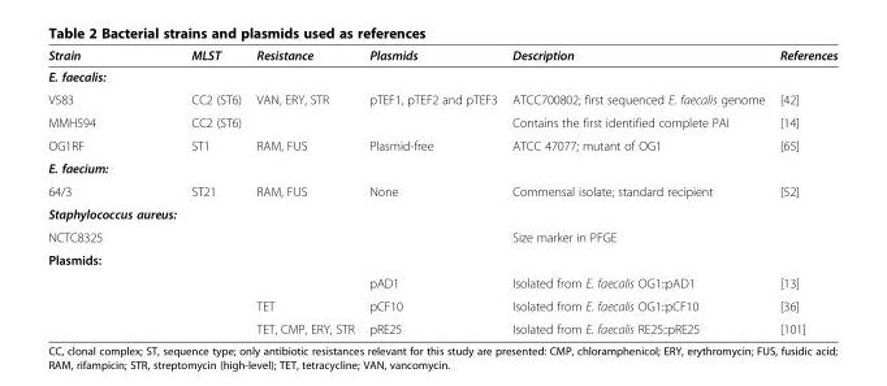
<table><thead><tr><td>Strain</td><td>MLST</td><td>Resistance</td><td>Plasmids</td><td>Description</td><td>References</td></tr></thead><tbody><tr><td colspan="6">E. faecalis:</td></tr><tr><td>V583</td><td>CC2 (ST6)</td><td>VAN, ERY, STR</td><td>pTEF1, pTEF2 and pTEF3</td><td>ATCC700802; first sequenced E. faecalis genome</td><td>[42]</td></tr><tr><td>MMH594</td><td>CC2 (ST6)</td><td></td><td></td><td>Contains the first identified complete PAI</td><td>[14]</td></tr><tr><td>OG1RF</td><td>ST1</td><td>RAM, FUS</td><td>Plasmid-free</td><td>ATCC 47077; mutant of OG1</td><td>[65]</td></tr><tr><td colspan="6">E. faecium:</td></tr><tr><td>64/3</td><td>ST21</td><td>RAM, FUS</td><td>None</td><td>Commensal isolate; standard recipient</td><td>[52]</td></tr><tr><td colspan="6">Staphylococcus aureus:</td></tr><tr><td>NCTC8325</td><td></td><td></td><td></td><td>Size marker in PFGE</td><td></td></tr><tr><td colspan="6">Plasmids:</td></tr><tr><td></td><td></td><td></td><td>pAD1</td><td>Isolated from E. faecalis OG1::pAD1</td><td>[13]</td></tr><tr><td></td><td></td><td>TET</td><td>pCF10</td><td>Isolated from E. faecalis OG1::pCF10</td><td>[36]</td></tr><tr><td></td><td></td><td>TET, CMP, ERY, STR</td><td>pRE25</td><td>Isolated from E. faecalis RE25::pRE25</td><td>[101]</td></tr></tbody></table>